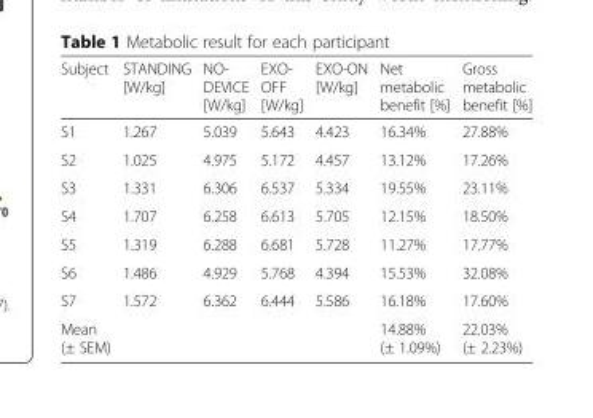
<table><thead><tr><td>Subject</td><td>STANDING [W/kg]</td><td>NO- DEVICE [W/kg]</td><td>EXO- OFF [W/kg]</td><td>EXO-ON [W/kg]</td><td>Net metabolic benefit [%]</td><td>Gross metabolic benefit [%]</td></tr></thead><tbody><tr><td>S1</td><td>1.267</td><td>5.039</td><td>5.643</td><td>4.423</td><td>16.34%</td><td>27.88%</td></tr><tr><td>S2</td><td>1.025</td><td>4.975</td><td>5.172</td><td>4.457</td><td>13.12%</td><td>17.26%</td></tr><tr><td>S3</td><td>1.331</td><td>6.306</td><td>6.537</td><td>5.334</td><td>19.55%</td><td>23.11%</td></tr><tr><td>S4</td><td>1.707</td><td>6.258</td><td>6.613</td><td>5.705</td><td>12.15%</td><td>18.50%</td></tr><tr><td>S5</td><td>1.319</td><td>6.288</td><td>6.681</td><td>5.728</td><td>11.27%</td><td>17.77%</td></tr><tr><td>S6</td><td>1.486</td><td>4.929</td><td>5.768</td><td>4.394</td><td>15.53%</td><td>32.08%</td></tr><tr><td>S7</td><td>1.572</td><td>6.362</td><td>6.444</td><td>5.586</td><td>16.18%</td><td>17.60%</td></tr><tr><td>Mean (± SEM)</td><td></td><td></td><td></td><td></td><td>14.88% (± 1.09%)</td><td>22.03% (± 2.23%)</td></tr></tbody></table>